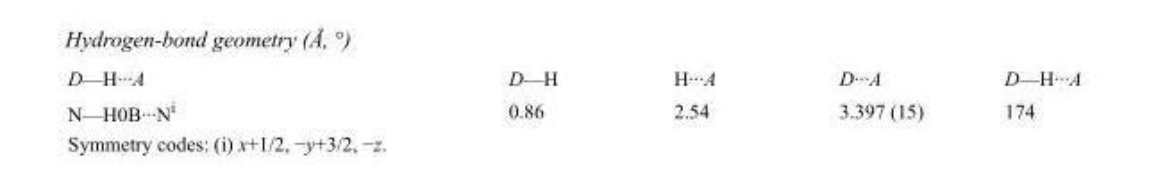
<table><tbody><tr><td>D—H···A</td><td>D—H</td><td>H···A</td><td>D···A</td><td>D—H···A</td></tr><tr><td>N—H0B···N<sup>i</sup></td><td>0.86</td><td>2.54</td><td>3.397 (15)</td><td>174</td></tr></tbody></table>